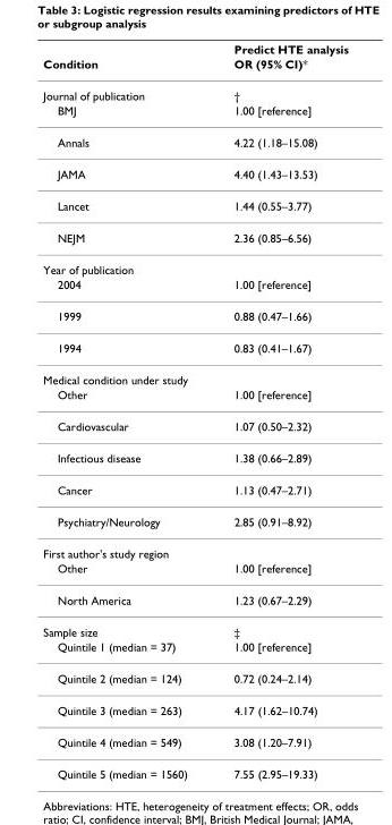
<table><thead><tr><td rowspan="2">Condition</td><td rowspan="2">Predict HTE analysis OR (95% CI)*</td></tr><tr></tr></thead><tbody><tr><td>Journal of publication</td><td>†</td></tr><tr><td>BMJ</td><td>1.00 [reference]</td></tr><tr><td>Annals</td><td>4.22 (1.18–15.08)</td></tr><tr><td>JAMA</td><td>4.40 (1.43–13.53)</td></tr><tr><td>Lancet</td><td>1.44 (0.55–3.77)</td></tr><tr><td>NEJM</td><td>2.36 (0.85–6.56)</td></tr><tr><td colspan="2">Year of publication</td></tr><tr><td>2004</td><td>1.00 [reference]</td></tr><tr><td>1999</td><td>0.88 (0.47–1.66)</td></tr><tr><td>1994</td><td>0.83 (0.41–1.67)</td></tr><tr><td colspan="2">Medical condition under study</td></tr><tr><td>Other</td><td>1.00 [reference]</td></tr><tr><td>Cardiovascular</td><td>1.07 (0.50–2.32)</td></tr><tr><td>Infectious disease</td><td>1.38 (0.66–2.89)</td></tr><tr><td>Cancer</td><td>1.13 (0.47–2.71)</td></tr><tr><td>Psychiatry/Neurology</td><td>2.85 (0.91–8.92)</td></tr><tr><td colspan="2">First author&#x27;s study region</td></tr><tr><td>Other</td><td>1.00 [reference]</td></tr><tr><td>North America</td><td>1.23 (0.67–2.29)</td></tr><tr><td>Sample size</td><td>‡</td></tr><tr><td>Quintile 1 (median = 37)</td><td>1.00 [reference]</td></tr><tr><td>Quintile 2 (median = 124)</td><td>0.72 (0.24–2.14)</td></tr><tr><td>Quintile 3 (median = 263)</td><td>4.17 (1.62–10.74)</td></tr><tr><td>Quintile 4 (median = 549)</td><td>3.08 (1.20–7.91)</td></tr><tr><td>Quintile 5 (median = 1560)</td><td>7.55 (2.95–19.33)</td></tr></tbody></table>